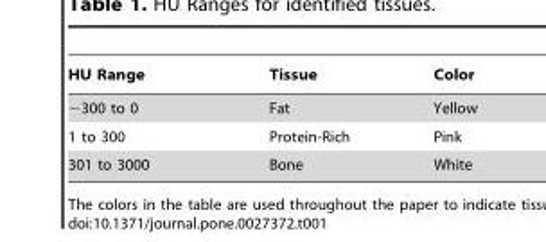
<table><thead><tr><td>HU Range</td><td>Tissue</td><td>Color</td></tr></thead><tbody><tr><td>−300 to 0</td><td>Fat</td><td>Yellow</td></tr><tr><td>1 to 300</td><td>Protein-Rich</td><td>Pink</td></tr><tr><td>301 to 3000</td><td>Bone</td><td>White</td></tr></tbody></table>